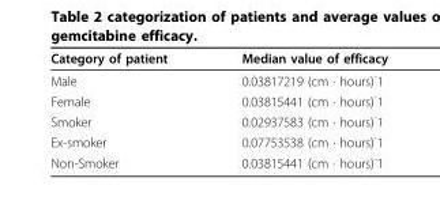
<table><thead><tr><td>Category of patient</td><td>Median value of efficacy</td></tr></thead><tbody><tr><td>Male</td><td>0.03817219 (cm · hours)<sup>-</sup>1</td></tr><tr><td>Female</td><td>0.03815441 (cm · hours)<sup>-</sup>1</td></tr><tr><td>Smoker</td><td>0.02937583 (cm · hours)<sup>-</sup>1</td></tr><tr><td>Ex-smoker</td><td>0.07753538 (cm · hours)<sup>-</sup>1</td></tr><tr><td>Non-Smoker</td><td>0.03815441 (cm · hours)<sup>-</sup>1</td></tr></tbody></table>